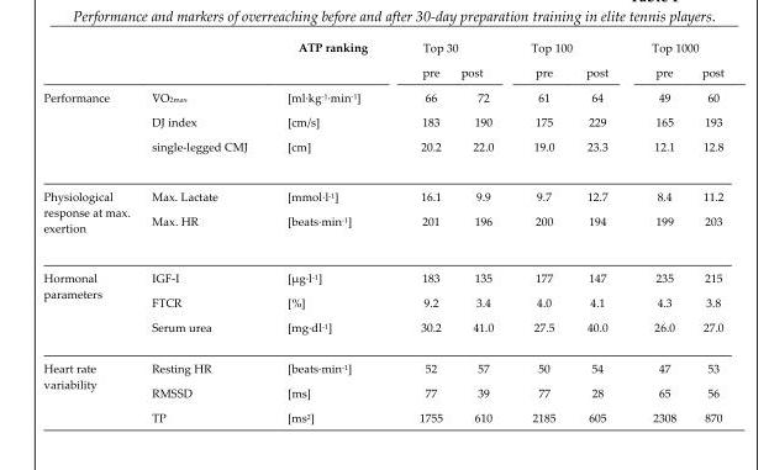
<table><thead><tr><td rowspan="2"></td><td rowspan="2"></td><td rowspan="2">ATP ranking</td><td colspan="2">Top 30</td><td colspan="2">Top 100</td><td colspan="2">Top 1000</td></tr><tr><td>pre</td><td>post</td><td>pre</td><td>post</td><td>pre</td><td>post</td></tr></thead><tbody><tr><td rowspan="3">Performance</td><td>V˙ O<sub>2max</sub></td><td>[ml·kg<sup>-1</sup>·min<sup>-1</sup>]</td><td>66</td><td>72</td><td>61</td><td>64</td><td>49</td><td>60</td></tr><tr><td>DJ index</td><td>[cm/s]</td><td>183</td><td>190</td><td>175</td><td>229</td><td>165</td><td>193</td></tr><tr><td>single-legged CMJ</td><td>[cm]</td><td>20.2</td><td>22.0</td><td>19.0</td><td>23.3</td><td>12.1</td><td>12.8</td></tr><tr><td rowspan="2">Physiological response at max. exertion</td><td>Max. Lactate</td><td>[mmol·l<sup>-1</sup>]</td><td>16.1</td><td>9.9</td><td>9.7</td><td>12.7</td><td>8.4</td><td>11.2</td></tr><tr><td>Max. HR</td><td>[beats·min<sup>-1</sup>]</td><td>201</td><td>196</td><td>200</td><td>194</td><td>199</td><td>203</td></tr><tr><td rowspan="3">Hormonal parameters</td><td>IGF-I</td><td>[μg·l<sup>-1</sup>]</td><td>183</td><td>135</td><td>177</td><td>147</td><td>235</td><td>215</td></tr><tr><td>FTCR</td><td>[%]</td><td>9.2</td><td>3.4</td><td>4.0</td><td>4.1</td><td>4.3</td><td>3.8</td></tr><tr><td>Serum urea</td><td>[mg·dl<sup>-1</sup>]</td><td>30.2</td><td>41.0</td><td>27.5</td><td>40.0</td><td>26.0</td><td>27.0</td></tr><tr><td rowspan="3">Heart rate variability</td><td>Resting HR</td><td>[beats·min<sup>-1</sup>]</td><td>52</td><td>57</td><td>50</td><td>54</td><td>47</td><td>53</td></tr><tr><td>RMSSD</td><td>[ms]</td><td>77</td><td>39</td><td>77</td><td>28</td><td>65</td><td>56</td></tr><tr><td>TP</td><td>[ms<sup>2</sup>]</td><td>1755</td><td>610</td><td>2185</td><td>605</td><td>2308</td><td>870</td></tr></tbody></table>